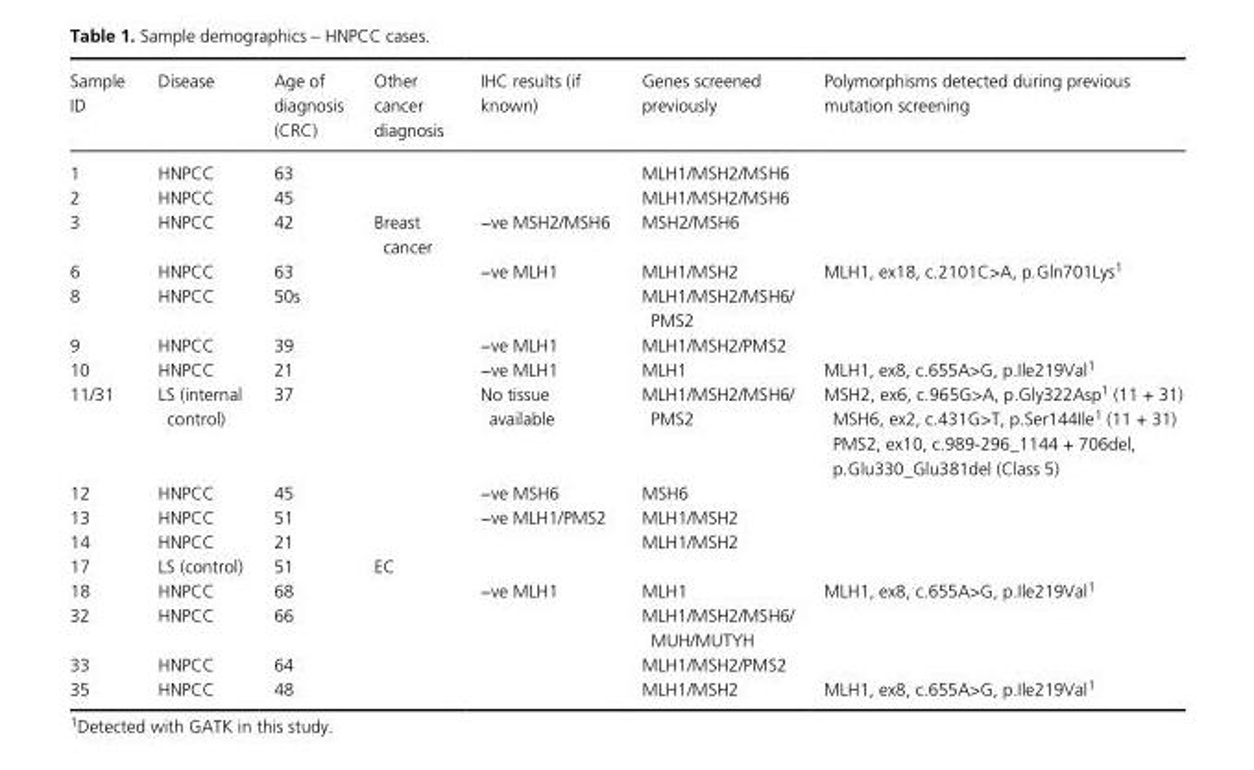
<table><thead><tr><td>Sample ID</td><td>Disease</td><td>Age of diagnosis (CRC)</td><td>Other cancer diagnosis</td><td>IHC results (if known)</td><td>Genes screened previously</td><td>Polymorphisms detected during previous mutation screening</td></tr></thead><tbody><tr><td>1</td><td>HNPCC</td><td>63</td><td></td><td></td><td>MLH1/MSH2/MSH6</td><td></td></tr><tr><td>2</td><td>HNPCC</td><td>45</td><td></td><td></td><td>MLH1/MSH2/MSH6</td><td></td></tr><tr><td>3</td><td>HNPCC</td><td>42</td><td>Breast cancer</td><td>−ve MSH2/MSH6</td><td>MSH2/MSH6</td><td></td></tr><tr><td>6</td><td>HNPCC</td><td>63</td><td></td><td>−ve MLH1</td><td>MLH1/MSH2</td><td>MLH1, ex18, c.2101C&gt;A, p.Gln701Lys1</td></tr><tr><td>8</td><td>HNPCC</td><td>50s</td><td></td><td></td><td>MLH1/MSH2/MSH6/ PMS2</td><td></td></tr><tr><td>9</td><td>HNPCC</td><td>39</td><td></td><td>−ve MLH1</td><td>MLH1/MSH2/PMS2</td><td></td></tr><tr><td>10</td><td>HNPCC</td><td>21</td><td></td><td>−ve MLH1</td><td>MLH1</td><td>MLH1, ex8, c.655A&gt;G, p.Ile219Val1</td></tr><tr><td>11/31</td><td>LS (internal control)</td><td>37</td><td></td><td>No tissue available</td><td>MLH1/MSH2/MSH6/ PMS2</td><td>MSH2, ex6, c.965G&gt;A, p.Gly322Asp1 (11 + 31) MSH6, ex2, c.431G&gt;T, p.Ser144Ile1 (11 + 31) PMS2, ex10, c.989- 296_1144 + 706del, p.Glu330_Glu381del (Class 5)</td></tr><tr><td>12</td><td>HNPCC</td><td>45</td><td></td><td>−ve MSH6</td><td>MSH6</td><td></td></tr><tr><td>13</td><td>HNPCC</td><td>51</td><td></td><td>−ve MLH1/PMS2</td><td>MLH1/MSH2</td><td></td></tr><tr><td>14</td><td>HNPCC</td><td>21</td><td></td><td></td><td>MLH1/MSH2</td><td></td></tr><tr><td>17</td><td>LS (control)</td><td>51</td><td>EC</td><td></td><td></td><td></td></tr><tr><td>18</td><td>HNPCC</td><td>68</td><td></td><td>−ve MLH1</td><td>MLH1</td><td>MLH1, ex8, c.655A&gt;G, p.Ile219Val1</td></tr><tr><td>32</td><td>HNPCC</td><td>66</td><td></td><td></td><td>MLH1/MSH2/MSH6/ MUH/MUTYH</td><td></td></tr><tr><td>33</td><td>HNPCC</td><td>64</td><td></td><td></td><td>MLH1/MSH2/PMS2</td><td></td></tr><tr><td>35</td><td>HNPCC</td><td>48</td><td></td><td></td><td>MLH1/MSH2</td><td>MLH1, ex8, c.655A&gt;G, p.Ile219Val1</td></tr></tbody></table>